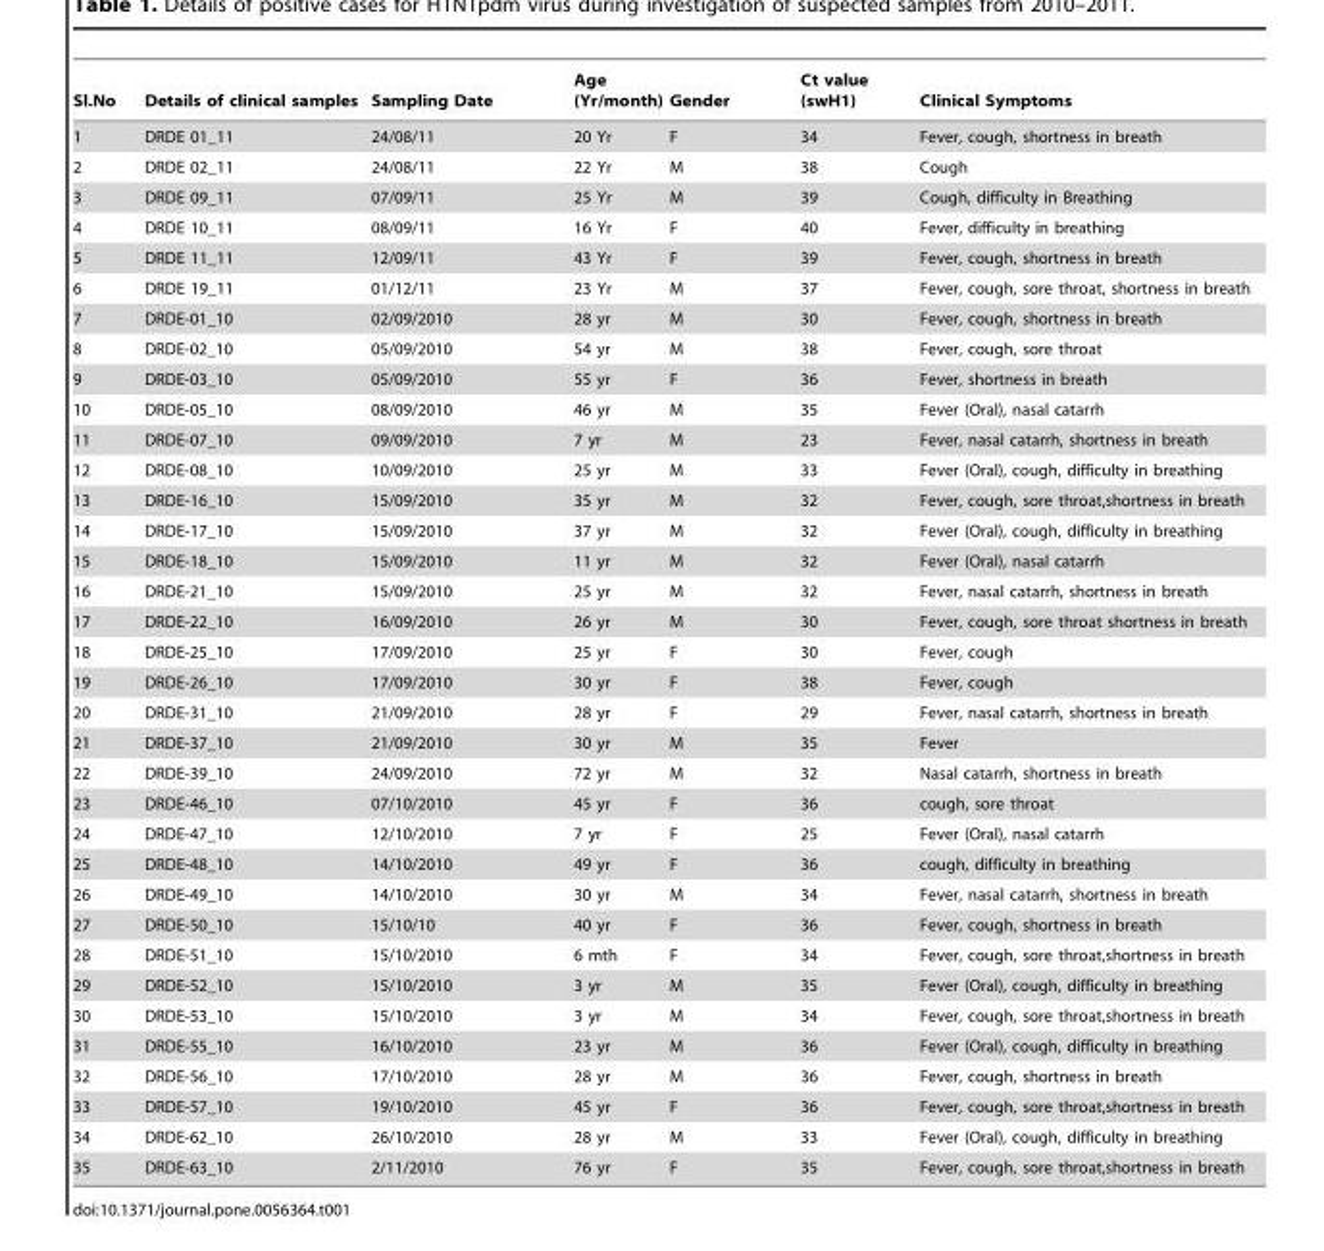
<table><thead><tr><td>Sl.No</td><td>Details of clinical samples</td><td>Sampling Date</td><td>Age (Yr/month)</td><td>Gender</td><td>Ct value (swH1)</td><td>Clinical Symptoms</td></tr></thead><tbody><tr><td>1</td><td>DRDE 01_11</td><td>24/08/11</td><td>20 Yr</td><td>F</td><td>34</td><td>Fever, cough, shortness in breath</td></tr><tr><td>2</td><td>DRDE 02_11</td><td>24/08/11</td><td>22 Yr</td><td>M</td><td>38</td><td>Cough</td></tr><tr><td>3</td><td>DRDE 09_11</td><td>07/09/11</td><td>25 Yr</td><td>M</td><td>39</td><td>Cough, difficulty in Breathing</td></tr><tr><td>4</td><td>DRDE 10_11</td><td>08/09/11</td><td>16 Yr</td><td>F</td><td>40</td><td>Fever, difficulty in breathing</td></tr><tr><td>5</td><td>DRDE 11_11</td><td>12/09/11</td><td>43 Yr</td><td>F</td><td>39</td><td>Fever, cough, shortness in breath</td></tr><tr><td>6</td><td>DRDE 19_11</td><td>01/12/11</td><td>23 Yr</td><td>M</td><td>37</td><td>Fever, cough, sore throat, shortness in breath</td></tr><tr><td>7</td><td>DRDE-01_10</td><td>02/09/2010</td><td>28 yr</td><td>M</td><td>30</td><td>Fever, cough, shortness in breath</td></tr><tr><td>8</td><td>DRDE-02_10</td><td>05/09/2010</td><td>54 yr</td><td>M</td><td>38</td><td>Fever, cough, sore throat</td></tr><tr><td>9</td><td>DRDE-03_10</td><td>05/09/2010</td><td>55 yr</td><td>F</td><td>36</td><td>Fever, shortness in breath</td></tr><tr><td>10</td><td>DRDE-05_10</td><td>08/09/2010</td><td>46 yr</td><td>M</td><td>35</td><td>Fever (Oral), nasal catarrh</td></tr><tr><td>11</td><td>DRDE-07_10</td><td>09/09/2010</td><td>7 yr</td><td>M</td><td>23</td><td>Fever, nasal catarrh, shortness in breath</td></tr><tr><td>12</td><td>DRDE-08_10</td><td>10/09/2010</td><td>25 yr</td><td>M</td><td>33</td><td>Fever (Oral), cough, difficulty in breathing</td></tr><tr><td>13</td><td>DRDE-16_10</td><td>15/09/2010</td><td>35 yr</td><td>M</td><td>32</td><td>Fever, cough, sore throat,shortness in breath</td></tr><tr><td>14</td><td>DRDE-17_10</td><td>15/09/2010</td><td>37 yr</td><td>M</td><td>32</td><td>Fever (Oral), cough, difficulty in breathing</td></tr><tr><td>15</td><td>DRDE-18_10</td><td>15/09/2010</td><td>11 yr</td><td>M</td><td>32</td><td>Fever (Oral), nasal catarrh</td></tr><tr><td>16</td><td>DRDE-21_10</td><td>15/09/2010</td><td>25 yr</td><td>M</td><td>32</td><td>Fever, nasal catarrh, shortness in breath</td></tr><tr><td>17</td><td>DRDE-22_10</td><td>16/09/2010</td><td>26 yr</td><td>M</td><td>30</td><td>Fever, cough, sore throat shortness in breath</td></tr><tr><td>18</td><td>DRDE-25_10</td><td>17/09/2010</td><td>25 yr</td><td>F</td><td>30</td><td>Fever, cough</td></tr><tr><td>19</td><td>DRDE-26_10</td><td>17/09/2010</td><td>30 yr</td><td>F</td><td>38</td><td>Fever, cough</td></tr><tr><td>20</td><td>DRDE-31_10</td><td>21/09/2010</td><td>28 yr</td><td>F</td><td>29</td><td>Fever, nasal catarrh, shortness in breath</td></tr><tr><td>21</td><td>DRDE-37_10</td><td>21/09/2010</td><td>30 yr</td><td>M</td><td>35</td><td>Fever</td></tr><tr><td>22</td><td>DRDE-39_10</td><td>24/09/2010</td><td>72 yr</td><td>M</td><td>32</td><td>Nasal catarrh, shortness in breath</td></tr><tr><td>23</td><td>DRDE-46_10</td><td>07/10/2010</td><td>45 yr</td><td>F</td><td>36</td><td>cough, sore throat</td></tr><tr><td>24</td><td>DRDE-47_10</td><td>12/10/2010</td><td>7 yr</td><td>F</td><td>25</td><td>Fever (Oral), nasal catarrh</td></tr><tr><td>25</td><td>DRDE-48_10</td><td>14/10/2010</td><td>49 yr</td><td>F</td><td>36</td><td>cough, difficulty in breathing</td></tr><tr><td>26</td><td>DRDE-49_10</td><td>14/10/2010</td><td>30 yr</td><td>M</td><td>34</td><td>Fever, nasal catarrh, shortness in breath</td></tr><tr><td>27</td><td>DRDE-50_10</td><td>15/10/10</td><td>40 yr</td><td>F</td><td>36</td><td>Fever, cough, shortness in breath</td></tr><tr><td>28</td><td>DRDE-51_10</td><td>15/10/2010</td><td>6 mth</td><td>F</td><td>34</td><td>Fever, cough, sore throat,shortness in breath</td></tr><tr><td>29</td><td>DRDE-52_10</td><td>15/10/2010</td><td>3 yr</td><td>M</td><td>35</td><td>Fever (Oral), cough, difficulty in breathing</td></tr><tr><td>30</td><td>DRDE-53_10</td><td>15/10/2010</td><td>3 yr</td><td>M</td><td>34</td><td>Fever, cough, sore throat,shortness in breath</td></tr><tr><td>31</td><td>DRDE-55_10</td><td>16/10/2010</td><td>23 yr</td><td>M</td><td>36</td><td>Fever (Oral), cough, difficulty in breathing</td></tr><tr><td>32</td><td>DRDE-56_10</td><td>17/10/2010</td><td>28 yr</td><td>M</td><td>36</td><td>Fever, cough, shortness in breath</td></tr><tr><td>33</td><td>DRDE-57_10</td><td>19/10/2010</td><td>45 yr</td><td>F</td><td>36</td><td>Fever, cough, sore throat,shortness in breath</td></tr><tr><td>34</td><td>DRDE-62_10</td><td>26/10/2010</td><td>28 yr</td><td>M</td><td>33</td><td>Fever (Oral), cough, difficulty in breathing</td></tr><tr><td>35</td><td>DRDE-63_10</td><td>2/11/2010</td><td>76 yr</td><td>F</td><td>35</td><td>Fever, cough, sore throat,shortness in breath</td></tr></tbody></table>